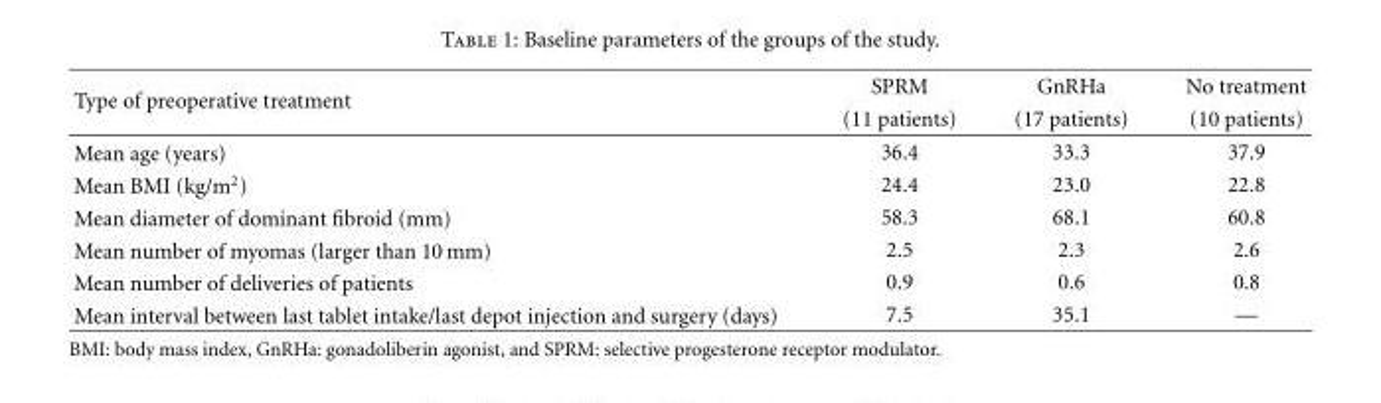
<table><thead><tr><td rowspan="2">Type of preoperative treatment</td><td rowspan="2">SPRM (11 patients)</td><td rowspan="2">GnRHa (17 patients)</td><td rowspan="2">No treatment (10 patients)</td></tr><tr></tr></thead><tbody><tr><td>Mean age (years)</td><td>36.4</td><td>33.3</td><td>37.9</td></tr><tr><td>Mean BMI (kg/m<sup>2</sup>)</td><td>24.4</td><td>23.0</td><td>22.8</td></tr><tr><td>Mean diameter of dominant fibroid (mm)</td><td>58.3</td><td>68.1</td><td>60.8</td></tr><tr><td>Mean number of myomas (larger than 10 mm)</td><td>2.5</td><td>2.3</td><td>2.6</td></tr><tr><td>Mean number of deliveries of patients</td><td>0.9</td><td>0.6</td><td>0.8</td></tr><tr><td>Mean interval between last tablet intake/last depot injection and surgery (days)</td><td>7.5</td><td>35.1</td><td>—</td></tr></tbody></table>